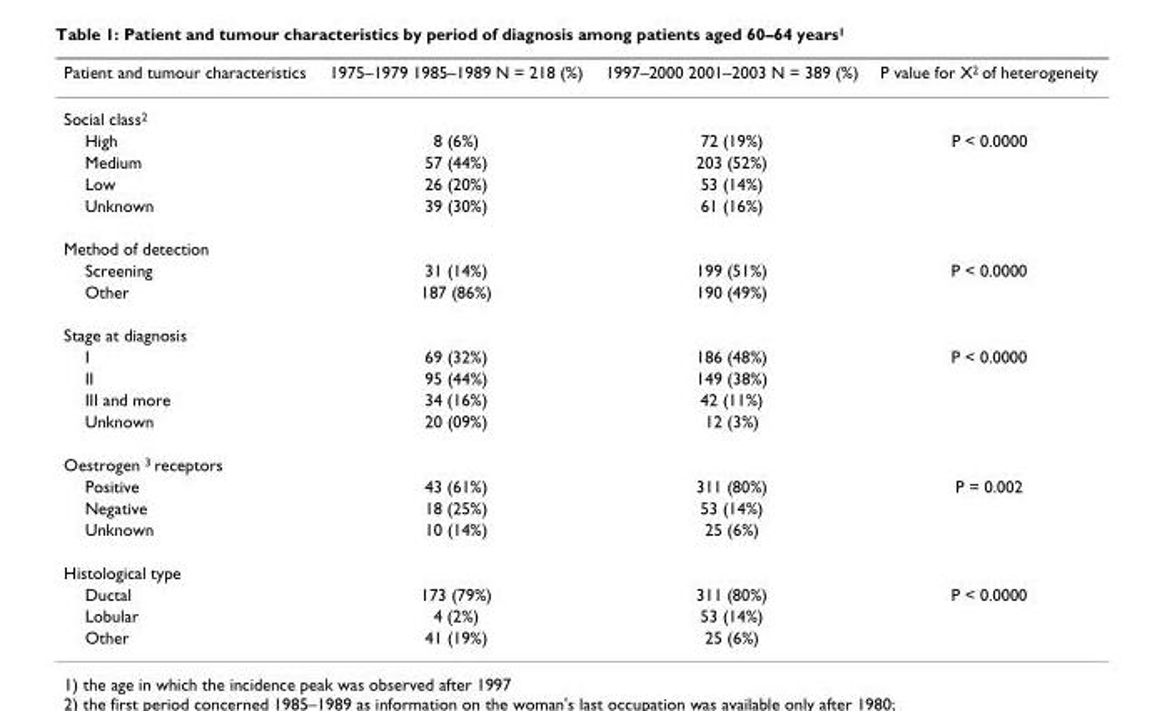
<table><thead><tr><td>Patient and tumour characteristics</td><td>1975–1979 1985–1989 N = 218 (%)</td><td>1997–2000 2001–2003 N = 389 (%)</td><td>P value for X2 of heterogeneity</td></tr></thead><tbody><tr><td colspan="4">Social class2</td></tr><tr><td>High</td><td>8 (6%)</td><td>72 (19%)</td><td>P &lt; 0.0000</td></tr><tr><td>Medium</td><td>57 (44%)</td><td>203 (52%)</td><td></td></tr><tr><td>Low</td><td>26 (20%)</td><td>53 (14%)</td><td></td></tr><tr><td>Unknown</td><td>39 (30%)</td><td>61 (16%)</td><td></td></tr><tr><td colspan="4">Method of detection</td></tr><tr><td>Screening</td><td>31 (14%)</td><td>199 (51%)</td><td>P &lt; 0.0000</td></tr><tr><td>Other</td><td>187 (86%)</td><td>190 (49%)</td><td></td></tr><tr><td colspan="4">Stage at diagnosis</td></tr><tr><td>I</td><td>69 (32%)</td><td>186 (48%)</td><td>P &lt; 0.0000</td></tr><tr><td>II</td><td>95 (44%)</td><td>149 (38%)</td><td></td></tr><tr><td>III and more</td><td>34 (16%)</td><td>42 (11%)</td><td></td></tr><tr><td>Unknown</td><td>20 (09%)</td><td>12 (3%)</td><td></td></tr><tr><td colspan="4">Oestrogen 3 receptors</td></tr><tr><td>Positive</td><td>43 (61%)</td><td>311 (80%)</td><td>P = 0.002</td></tr><tr><td>Negative</td><td>18 (25%)</td><td>53 (14%)</td><td></td></tr><tr><td>Unknown</td><td>10 (14%)</td><td>25 (6%)</td><td></td></tr><tr><td colspan="4">Histological type</td></tr><tr><td>Ductal</td><td>173 (79%)</td><td>311 (80%)</td><td>P &lt; 0.0000</td></tr><tr><td>Lobular</td><td>4 (2%)</td><td>53 (14%)</td><td></td></tr><tr><td>Other</td><td>41 (19%)</td><td>25 (6%)</td><td></td></tr></tbody></table>